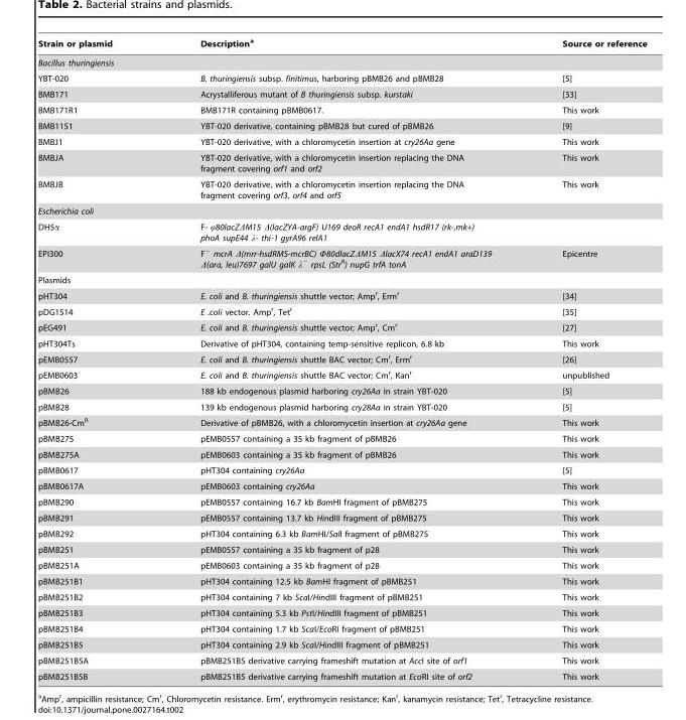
<table><thead><tr><td>Strain or plasmid</td><td>Description<sup>a</sup></td><td>Source or reference</td></tr></thead><tbody><tr><td colspan="3">Bacillus thuringiensis</td></tr><tr><td>YBT-020</td><td>B. thuringiensis subsp. finitimus, harboring pBMB26 and pBMB28</td><td>[5]</td></tr><tr><td>BMB171</td><td>Acrystalliferous mutant of B thuringiensis subsp. kurstaki</td><td>[33]</td></tr><tr><td>BMB171R1</td><td>BMB171R containing pBMB0617.</td><td>This work</td></tr><tr><td>BMB1151</td><td>YBT-020 derivative, containing pBMB28 but cured of pBMB26</td><td>[9]</td></tr><tr><td>BMBJ1</td><td>YBT-020 derivative, with a chloromycetin insertion at cry26Aa gene</td><td>This work</td></tr><tr><td>BMBJA</td><td>YBT-020 derivative, with a chloromycetin insertion replacing the DNA fragment covering orf1 and orf2</td><td>This work</td></tr><tr><td>BMBJB</td><td>YBT-020 derivative, with a chloromycetin insertion replacing the DNA fragment covering orf3, orf4 and orf5</td><td>This work</td></tr><tr><td colspan="3">Escherichia coli</td></tr><tr><td>DH5α</td><td>F- ϕ80lacZΔM15 Δ(lacZYA-argF) U169 deoR recA1 endA1 hsdR17 (rk-,mk+) phoA supE44 λ- thi-1 gyrA96 relA1</td><td></td></tr><tr><td>EPI300</td><td>F<sup>−</sup> mcrA Δ(mrr-hsdRMS-mcrBC) Φ80dlacZΔM15 ΔlacX74 recA1 endA1 araD139 Δ(ara, leu)7697 galU galK λ<sup>−</sup> rpsL (Str<sup>R</sup>) nupG trfA tonA</td><td>Epicentre</td></tr><tr><td colspan="3">Plasmids</td></tr><tr><td>pHT304</td><td>E. coli and B. thuringiensis shuttle vector; Amp<sup>r</sup>, Erm<sup>r</sup></td><td>[34]</td></tr><tr><td>pDG1514</td><td>E .coli vector. Amp<sup>r</sup>, Tet<sup>r</sup></td><td>[35]</td></tr><tr><td>pEG491</td><td>E. coli and B. thuringiensis shuttle vector; Amp<sup>r</sup>, Cm<sup>r</sup></td><td>[27]</td></tr><tr><td>pHT304Ts</td><td>Derivative of pHT304, containing temp-sensitive replicon, 6.8 kb</td><td>This work</td></tr><tr><td>pEMB0557</td><td>E. coli and B. thuringiensis shuttle BAC vector; Cm<sup>r</sup>, Erm<sup>r</sup></td><td>[26]</td></tr><tr><td>pEMB0603</td><td>E. coli and B. thuringiensis shuttle BAC vector; Cm<sup>r</sup>, Kan<sup>r</sup></td><td>unpublished</td></tr><tr><td>pBMB26</td><td>188 kb endogenous plasmid harboring cry26Aa in strain YBT-020</td><td>[5]</td></tr><tr><td>pBMB28</td><td>139 kb endogenous plasmid harboring cry28Aa in strain YBT-020</td><td>[5]</td></tr><tr><td>pBMB26-Cm<sup>R</sup></td><td>Derivative of pBMB26, with a chloromycetin insertion at cry26Aa gene</td><td>This work</td></tr><tr><td>pBMB275</td><td>pEMB0557 containing a 35 kb fragment of pBMB26</td><td>This work</td></tr><tr><td>pBMB275A</td><td>pEMB0603 containing a 35 kb fragment of pBMB26</td><td>This work</td></tr><tr><td>pBMB0617</td><td>pHT304 containing cry26Aa</td><td>[5]</td></tr><tr><td>pBMB0617A</td><td>pEMB0603 containing cry26Aa</td><td>This work</td></tr><tr><td>pBMB290</td><td>pEMB0557 containing 16.7 kb BamHI fragment of pBMB275</td><td>This work</td></tr><tr><td>pBMB291</td><td>pEMB0557 containing 13.7 kb HindIII fragment of pBMB275</td><td>This work</td></tr><tr><td>pBMB292</td><td>pHT304 containing 6.3 kb BamHI/SalI fragment of pBMB275</td><td>This work</td></tr><tr><td>pBMB251</td><td>pEMB0557 containing a 35 kb fragment of p28</td><td>This work</td></tr><tr><td>pBMB251A</td><td>pEMB0603 containing a 35 kb fragment of p28</td><td>This work</td></tr><tr><td>pBMB251B1</td><td>pHT304 containing 12.5 kb BamHI fragment of pBMB251</td><td>This work</td></tr><tr><td>pBMB251B2</td><td>pHT304 containing 7 kb ScaI/HindIII fragment of pBMB251</td><td>This work</td></tr><tr><td>pBMB251B3</td><td>pHT304 containing 5.3 kb PstI/HindIII fragment of pBMB251</td><td>This work</td></tr><tr><td>pBMB251B4</td><td>pHT304 containing 1.7 kb ScaI/EcoRI fragment of pBMB251</td><td>This work</td></tr><tr><td>pBMB251B5</td><td>pHT304 containing 2.9 kb ScaI/HindIII fragment of pBMB251</td><td>This work</td></tr><tr><td>pBMB251B5A</td><td>pBMB251B5 derivative carrying frameshift mutation at AccI site of orf1</td><td>This work</td></tr><tr><td>pBMB251B5B</td><td>pBMB251B5 derivative carrying frameshift mutation at EcoRI site of orf2</td><td>This work</td></tr></tbody></table>